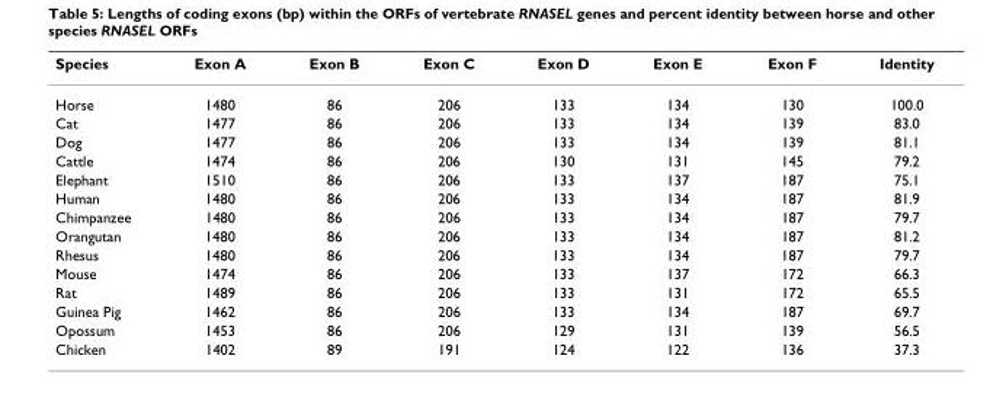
<table><thead><tr><td>Species</td><td>Exon A</td><td>Exon B</td><td>Exon C</td><td>Exon D</td><td>Exon E</td><td>Exon F</td><td>Identity</td></tr></thead><tbody><tr><td>Horse</td><td>1480</td><td>86</td><td>206</td><td>133</td><td>134</td><td>130</td><td>100.0</td></tr><tr><td>Cat</td><td>1477</td><td>86</td><td>206</td><td>133</td><td>134</td><td>139</td><td>83.0</td></tr><tr><td>Dog</td><td>1477</td><td>86</td><td>206</td><td>133</td><td>134</td><td>139</td><td>81.1</td></tr><tr><td>Cattle</td><td>1474</td><td>86</td><td>206</td><td>130</td><td>131</td><td>145</td><td>79.2</td></tr><tr><td>Elephant</td><td>1510</td><td>86</td><td>206</td><td>133</td><td>137</td><td>187</td><td>75.1</td></tr><tr><td>Human</td><td>1480</td><td>86</td><td>206</td><td>133</td><td>134</td><td>187</td><td>81.9</td></tr><tr><td>Chimpanzee</td><td>1480</td><td>86</td><td>206</td><td>133</td><td>134</td><td>187</td><td>79.7</td></tr><tr><td>Orangutan</td><td>1480</td><td>86</td><td>206</td><td>133</td><td>134</td><td>187</td><td>81.2</td></tr><tr><td>Rhesus</td><td>1480</td><td>86</td><td>206</td><td>133</td><td>134</td><td>187</td><td>79.7</td></tr><tr><td>Mouse</td><td>1474</td><td>86</td><td>206</td><td>133</td><td>137</td><td>172</td><td>66.3</td></tr><tr><td>Rat</td><td>1489</td><td>86</td><td>206</td><td>133</td><td>131</td><td>172</td><td>65.5</td></tr><tr><td>Guinea Pig</td><td>1462</td><td>86</td><td>206</td><td>133</td><td>134</td><td>187</td><td>69.7</td></tr><tr><td>Opossum</td><td>1453</td><td>86</td><td>206</td><td>129</td><td>131</td><td>139</td><td>56.5</td></tr><tr><td>Chicken</td><td>1402</td><td>89</td><td>191</td><td>124</td><td>122</td><td>136</td><td>37.3</td></tr></tbody></table>